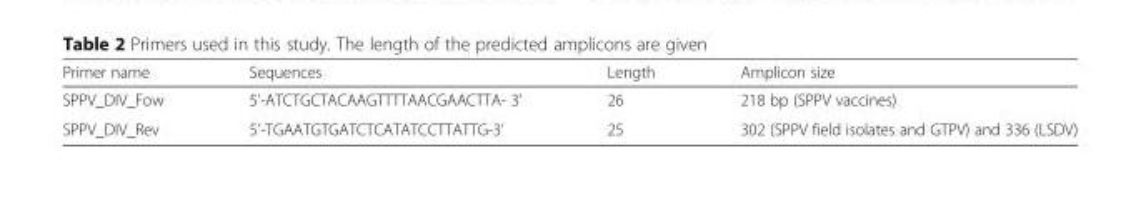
<table><thead><tr><td>Primer name</td><td>Sequences</td><td>Length</td><td>Amplicon size</td></tr></thead><tbody><tr><td>SPPV_DIV_Fow</td><td>5’-ATCTGCTACAAGTTTTAACGAACTTA- 3’</td><td>26</td><td>218 bp (SPPV vaccines)</td></tr><tr><td>SPPV_DIV_Rev</td><td>5’-TGAATGTGATCTCATATCCTTATTG-3’</td><td>25</td><td>302 (SPPV field isolates and GTPV) and 336 (LSDV)</td></tr></tbody></table>